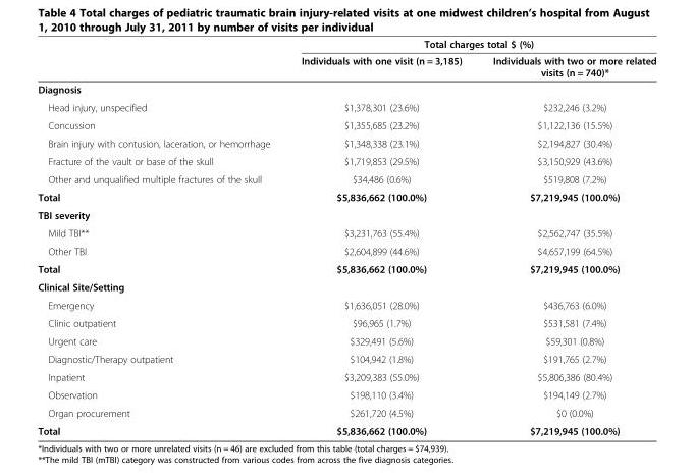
<table><thead><tr><td rowspan="2"></td><td colspan="2">Total charges total $ (%)</td></tr><tr><td>Individuals with one visit (n = 3,185)</td><td>Individuals with two or more related visits (n = 740)*</td></tr></thead><tbody><tr><td colspan="3">Diagnosis</td></tr><tr><td>Head injury, unspecified</td><td>$1,378,301 (23.6%)</td><td>$232,246 (3.2%)</td></tr><tr><td>Concussion</td><td>$1,355,685 (23.2%)</td><td>$1,122,136 (15.5%)</td></tr><tr><td>Brain injury with contusion, laceration, or hemorrhage</td><td>$1,348,338 (23.1%)</td><td>$2,194,827 (30.4%)</td></tr><tr><td>Fracture of the vault or base of the skull</td><td>$1,719,853 (29.5%)</td><td>$3,150,929 (43.6%)</td></tr><tr><td>Other and unqualified multiple fractures of the skull</td><td>$34,486 (0.6%)</td><td>$519,808 (7.2%)</td></tr><tr><td>Total</td><td>$5,836,662 (100.0%)</td><td>$7,219,945 (100.0%)</td></tr><tr><td colspan="3">TBI severity</td></tr><tr><td>Mild TBI**</td><td>$3,231,763 (55.4%)</td><td>$2,562,747 (35.5%)</td></tr><tr><td>Other TBI</td><td>$2,604,899 (44.6%)</td><td>$4,657,199 (64.5%)</td></tr><tr><td>Total</td><td>$5,836,662 (100.0%)</td><td>$7,219,945 (100.0%)</td></tr><tr><td colspan="3">Clinical Site/Setting</td></tr><tr><td>Emergency</td><td>$1,636,051 (28.0%)</td><td>$436,763 (6.0%)</td></tr><tr><td>Clinic outpatient</td><td>$96,965 (1.7%)</td><td>$531,581 (7.4%)</td></tr><tr><td>Urgent care</td><td>$329,491 (5.6%)</td><td>$59,301 (0.8%)</td></tr><tr><td>Diagnostic/Therapy outpatient</td><td>$104,942 (1.8%)</td><td>$191,765 (2.7%)</td></tr><tr><td>Inpatient</td><td>$3,209,383 (55.0%)</td><td>$5,806,386 (80.4%)</td></tr><tr><td>Observation</td><td>$198,110 (3.4%)</td><td>$194,149 (2.7%)</td></tr><tr><td>Organ procurement</td><td>$261,720 (4.5%)</td><td>$0 (0.0%)</td></tr><tr><td>Total</td><td>$5,836,662 (100.0%)</td><td>$7,219,945 (100.0%)</td></tr></tbody></table>